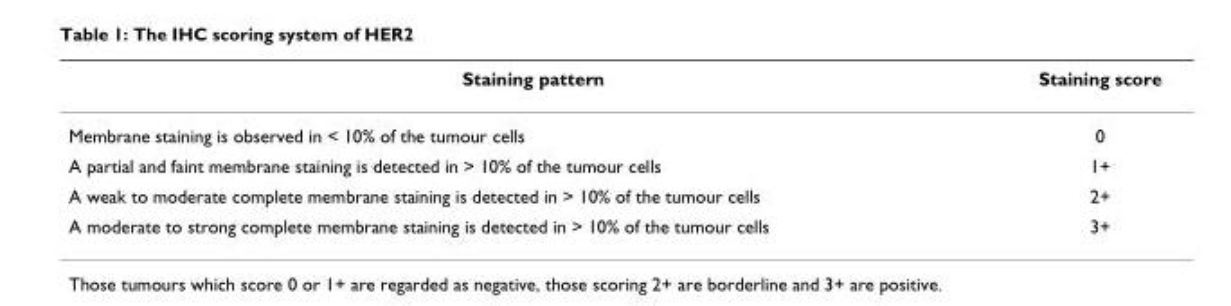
<table><thead><tr><td>Staining pattern</td><td>Staining score</td></tr></thead><tbody><tr><td>Membrane staining is observed in &lt; 10% of the tumour cells</td><td>0</td></tr><tr><td>A partial and faint membrane staining is detected in &gt; 10% of the tumour cells</td><td>1+</td></tr><tr><td>A weak to moderate complete membrane staining is detected in &gt; 10% of the tumour cells</td><td>2+</td></tr><tr><td>A moderate to strong complete membrane staining is detected in &gt; 10% of the tumour cells</td><td>3+</td></tr></tbody></table>